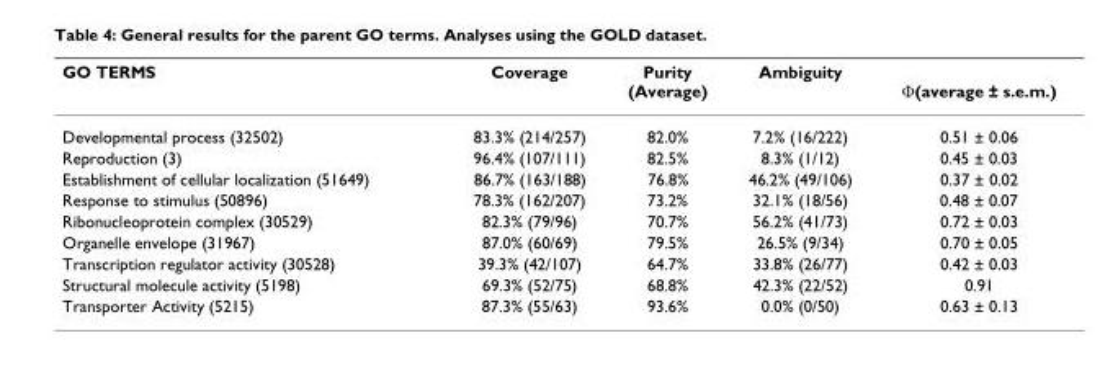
<table><thead><tr><td>GO TERMS</td><td>Coverage</td><td>Purity (Average)</td><td>Ambiguity</td><td>Φ(average ± s.e.m.)</td></tr></thead><tbody><tr><td>Developmental process (32502)</td><td>83.3% (214/257)</td><td>82.0%</td><td>7.2% (16/222)</td><td>0.51 ± 0.06</td></tr><tr><td>Reproduction (3)</td><td>96.4% (107/111)</td><td>82.5%</td><td>8.3% (1/12)</td><td>0.45 ± 0.03</td></tr><tr><td>Establishment of cellular localization (51649)</td><td>86.7% (163/188)</td><td>76.8%</td><td>46.2% (49/106)</td><td>0.37 ± 0.02</td></tr><tr><td>Response to stimulus (50896)</td><td>78.3% (162/207)</td><td>73.2%</td><td>32.1% (18/56)</td><td>0.48 ± 0.07</td></tr><tr><td>Ribonucleoprotein complex (30529)</td><td>82.3% (79/96)</td><td>70.7%</td><td>56.2% (41/73)</td><td>0.72 ± 0.03</td></tr><tr><td>Organelle envelope (31967)</td><td>87.0% (60/69)</td><td>79.5%</td><td>26.5% (9/34)</td><td>0.70 ± 0.05</td></tr><tr><td>Transcription regulator activity (30528)</td><td>39.3% (42/107)</td><td>64.7%</td><td>33.8% (26/77)</td><td>0.42 ± 0.03</td></tr><tr><td>Structural molecule activity (5198)</td><td>69.3% (52/75)</td><td>68.8%</td><td>42.3% (22/52)</td><td>0.91</td></tr><tr><td>Transporter Activity (5215)</td><td>87.3% (55/63)</td><td>93.6%</td><td>0.0% (0/50)</td><td>0.63 ± 0.13</td></tr></tbody></table>